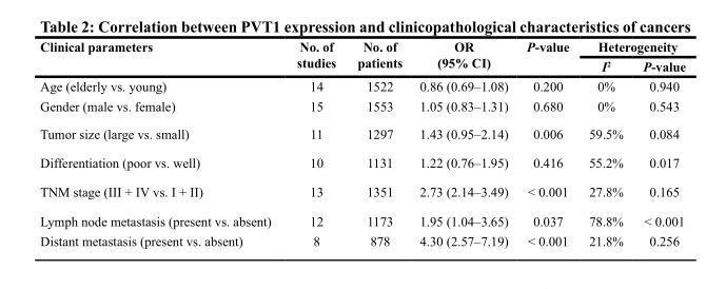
<table><thead><tr><td rowspan="2">Clinical parameters</td><td rowspan="2">No. of studies</td><td rowspan="2">No. of patients</td><td rowspan="2">OR (95% CI)</td><td rowspan="2">P-value</td><td colspan="2">Heterogeneity</td></tr><tr><td>I<sup>2</sup></td><td>P-value</td></tr></thead><tbody><tr><td>Age (elderly vs. young)</td><td>14</td><td>1522</td><td>0.86 (0.69–1.08)</td><td>0.200</td><td>0%</td><td>0.940</td></tr><tr><td>Gender (male vs. female)</td><td>15</td><td>1553</td><td>1.05 (0.83–1.31)</td><td>0.680</td><td>0%</td><td>0.543</td></tr><tr><td>Tumor size (large vs. small)</td><td>11</td><td>1297</td><td>1.43 (0.95–2.14)</td><td>0.006</td><td>59.5%</td><td>0.084</td></tr><tr><td>Differentiation (poor vs. well)</td><td>10</td><td>1131</td><td>1.22 (0.76–1.95)</td><td>0.416</td><td>55.2%</td><td>0.017</td></tr><tr><td>TNM stage (III + IV vs. I + II)</td><td>13</td><td>1351</td><td>2.73 (2.14–3.49)</td><td>&lt; 0.001</td><td>27.8%</td><td>0.165</td></tr><tr><td>Lymph node metastasis (present vs. absent)</td><td>12</td><td>1173</td><td>1.95 (1.04–3.65)</td><td>0.037</td><td>78.8%</td><td>&lt; 0.001</td></tr><tr><td>Distant metastasis (present vs. absent)</td><td>8</td><td>878</td><td>4.30 (2.57–7.19)</td><td>&lt; 0.001</td><td>21.8%</td><td>0.256</td></tr></tbody></table>